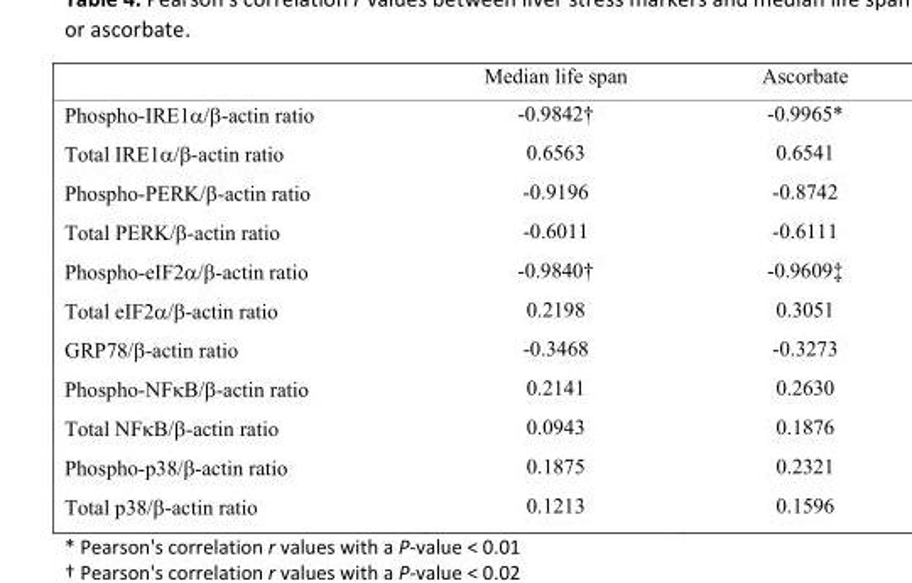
<table><thead><tr><td></td><td>Median life span</td><td>Ascorbate</td></tr></thead><tbody><tr><td>Phospho-IRE1α/β-actin ratio</td><td>-0.9842<sup>†</sup></td><td>-0.9965*</td></tr><tr><td>Total IRE1α/β-actin ratio</td><td>0.6563</td><td>0.6541</td></tr><tr><td>Phospho-PERK/β-actin ratio</td><td>-0.9196</td><td>-0.8742</td></tr><tr><td>Total PERK/β-actin ratio</td><td>-0.6011</td><td>-0.6111</td></tr><tr><td>Phospho-eIF2α/β-actin ratio</td><td>-0.9840<sup>†</sup></td><td>-0.9609<sup>‡</sup></td></tr><tr><td>Total eIF2α/β-actin ratio</td><td>0.2198</td><td>0.3051</td></tr><tr><td>GRP78/β-actin ratio</td><td>-0.3468</td><td>-0.3273</td></tr><tr><td>Phospho-NFκB/β-actin ratio</td><td>0.2141</td><td>0.2630</td></tr><tr><td>Total NFκB/β-actin ratio</td><td>0.0943</td><td>0.1876</td></tr><tr><td>Phospho-p38/β-actin ratio</td><td>0.1875</td><td>0.2321</td></tr><tr><td>Total p38/β-actin ratio</td><td>0.1213</td><td>0.1596</td></tr></tbody></table>